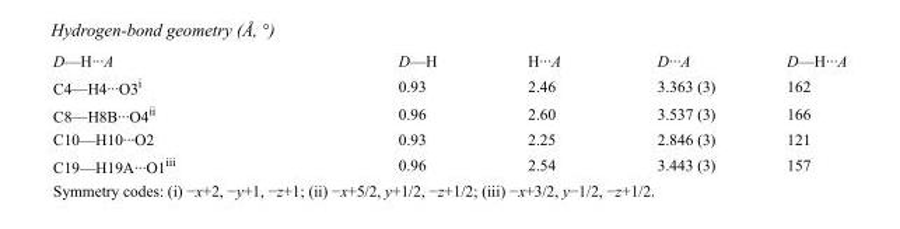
<table><tbody><tr><td>D—H···A</td><td>D—H</td><td>H···A</td><td>D···A</td><td>D—H···A</td></tr><tr><td>C4—H4···O3<sup>i</sup></td><td>0.93</td><td>2.46</td><td>3.363 (3)</td><td>162</td></tr><tr><td>C8—H8B···O4<sup>ii</sup></td><td>0.96</td><td>2.60</td><td>3.537 (3)</td><td>166</td></tr><tr><td>C10—H10···O2</td><td>0.93</td><td>2.25</td><td>2.846 (3)</td><td>121</td></tr><tr><td>C19—H19A···O1<sup>iii</sup></td><td>0.96</td><td>2.54</td><td>3.443 (3)</td><td>157</td></tr></tbody></table>